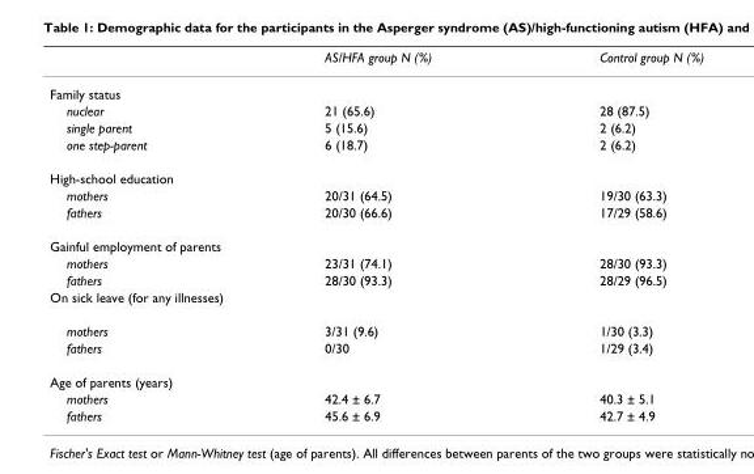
<table><thead><tr><td></td><td>AS/HFA group N (%)</td><td>Control group N (%)</td></tr></thead><tbody><tr><td colspan="3">Family status</td></tr><tr><td>nuclear</td><td>21 (65.6)</td><td>28 (87.5)</td></tr><tr><td>single parent</td><td>5 (15.6)</td><td>2 (6.2)</td></tr><tr><td>one step-parent</td><td>6 (18.7)</td><td>2 (6.2)</td></tr><tr><td colspan="3">High-school education</td></tr><tr><td>mothers</td><td>20/31 (64.5)</td><td>19/30 (63.3)</td></tr><tr><td>fathers</td><td>20/30 (66.6)</td><td>17/29 (58.6)</td></tr><tr><td colspan="3">Gainful employment of parents</td></tr><tr><td>mothers</td><td>23/31 (74.1)</td><td>28/30 (93.3)</td></tr><tr><td>fathers</td><td>28/30 (93.3)</td><td>28/29 (96.5)</td></tr><tr><td colspan="3">On sick leave (for any illnesses)</td></tr><tr><td>mothers</td><td>3/31 (9.6)</td><td>1/30 (3.3)</td></tr><tr><td>fathers</td><td>0/30</td><td>1/29 (3.4)</td></tr><tr><td colspan="3">Age of parents (years)</td></tr><tr><td>mothers</td><td>42.4 ± 6.7</td><td>40.3 ± 5.1</td></tr><tr><td>fathers</td><td>45.6 ± 6.9</td><td>42.7 ± 4.9</td></tr></tbody></table>